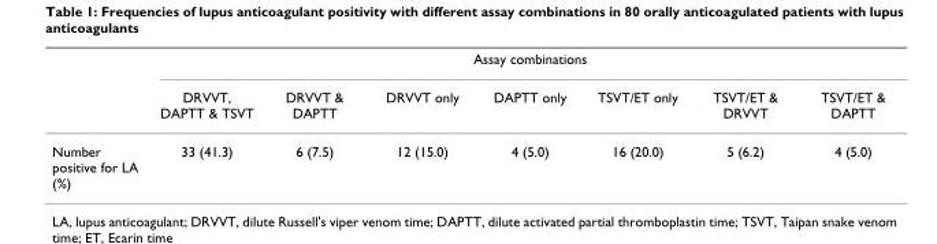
<table><thead><tr><td rowspan="2"></td><td colspan="7">Assay combinations</td></tr><tr><td>DRVVT, DAPTT &amp; TSVT</td><td>DRVVT &amp; DAPTT</td><td>DRVVT only</td><td>DAPTT only</td><td>TSVT/ET only</td><td>TSVT/ET &amp; DRVVT</td><td>TSVT/ET &amp; DAPTT</td></tr></thead><tbody><tr><td>Number positive for LA (%)</td><td>33 (41.3)</td><td>6 (7.5)</td><td>12 (15.0)</td><td>4 (5.0)</td><td>16 (20.0)</td><td>5 (6.2)</td><td>4 (5.0)</td></tr></tbody></table>